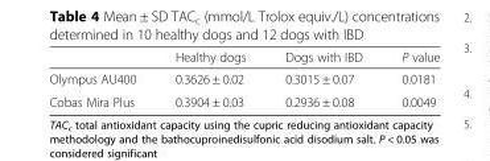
<table><thead><tr><td></td><td>Healthy dogs</td><td>Dogs with IBD</td><td>P value</td></tr></thead><tbody><tr><td>Olympus AU400</td><td>0.3626 ± 0.02</td><td>0.3015 ± 0.07</td><td>0.0181</td></tr><tr><td>Cobas Mira Plus</td><td>0.3904 ± 0.03</td><td>0.2936 ± 0.08</td><td>0.0049</td></tr></tbody></table>